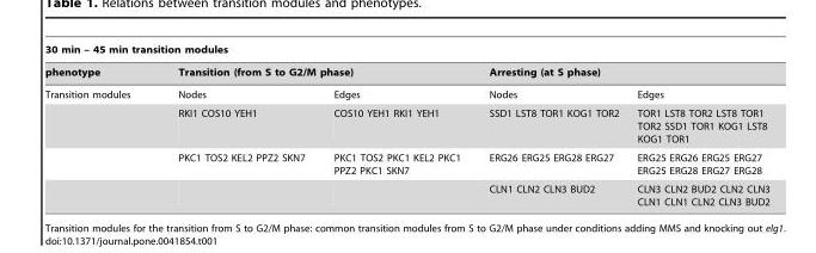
<table><thead><tr><td colspan="5">30 min – 45 min transition modules</td></tr><tr><td rowspan="2">phenotype Transition modules</td><td colspan="2">Transition (from S to G2/M phase)</td><td colspan="2">Arresting (at S phase)</td></tr><tr><td>Nodes</td><td>Edges</td><td>Nodes</td><td>Edges</td></tr></thead><tbody><tr><td></td><td>RKI1 COS10 YEH1</td><td>COS10 YEH1 RKI1 YEH1</td><td>SSD1 LST8 TOR1 KOG1 TOR2</td><td>TOR1 LST8 TOR2 LST8 TOR1 TOR2 SSD1 TOR1 KOG1 LST8 KOG1 TOR1</td></tr><tr><td></td><td>PKC1 TOS2 KEL2 PPZ2 SKN7</td><td>PKC1 TOS2 PKC1 KEL2 PKC1 PPZ2 PKC1 SKN7</td><td>ERG26 ERG25 ERG28 ERG27</td><td>ERG25 ERG26 ERG25 ERG27 ERG25 ERG28 ERG27 ERG28</td></tr><tr><td></td><td></td><td></td><td>CLN1 CLN2 CLN3 BUD2</td><td>CLN3 CLN2 BUD2 CLN2 CLN3 CLN1 CLN1 CLN2 CLN3 BUD2</td></tr></tbody></table>